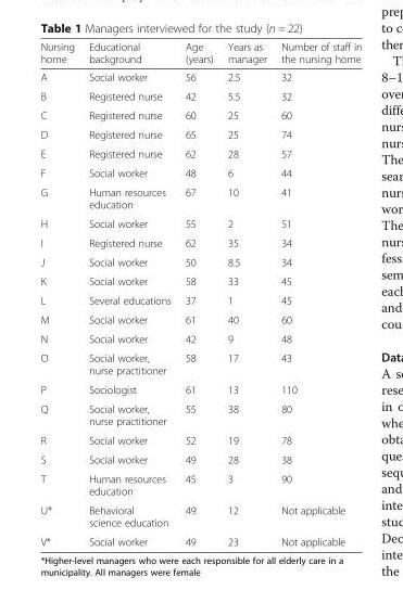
<table><thead><tr><td>Nursing home</td><td>Educational background</td><td>Age (years)</td><td>Years as manager</td><td>Number of staff in the nursing home</td></tr></thead><tbody><tr><td>A</td><td>Social worker</td><td>56</td><td>2.5</td><td>32</td></tr><tr><td>B</td><td>Registered nurse</td><td>42</td><td>5.5</td><td>32</td></tr><tr><td>C</td><td>Registered nurse</td><td>60</td><td>25</td><td>60</td></tr><tr><td>D</td><td>Registered nurse</td><td>65</td><td>25</td><td>74</td></tr><tr><td>E</td><td>Registered nurse</td><td>62</td><td>28</td><td>57</td></tr><tr><td>F</td><td>Social worker</td><td>48</td><td>6</td><td>44</td></tr><tr><td>G</td><td>Human resources education</td><td>67</td><td>10</td><td>41</td></tr><tr><td>H</td><td>Social worker</td><td>55</td><td>2</td><td>51</td></tr><tr><td>I</td><td>Registered nurse</td><td>62</td><td>35</td><td>34</td></tr><tr><td>J</td><td>Social worker</td><td>50</td><td>8.5</td><td>34</td></tr><tr><td>K</td><td>Social worker</td><td>58</td><td>33</td><td>45</td></tr><tr><td>L</td><td>Several educations</td><td>37</td><td>1</td><td>45</td></tr><tr><td>M</td><td>Social worker</td><td>61</td><td>40</td><td>60</td></tr><tr><td>N</td><td>Social worker</td><td>42</td><td>9</td><td>48</td></tr><tr><td>O</td><td>Social worker, nurse practitioner</td><td>58</td><td>17</td><td>43</td></tr><tr><td>P</td><td>Sociologist</td><td>61</td><td>13</td><td>110</td></tr><tr><td>Q</td><td>Social worker, nurse practitioner</td><td>55</td><td>38</td><td>80</td></tr><tr><td>R</td><td>Social worker</td><td>52</td><td>19</td><td>78</td></tr><tr><td>S</td><td>Social worker</td><td>49</td><td>28</td><td>38</td></tr><tr><td>T</td><td>Human resources education</td><td>45</td><td>3</td><td>90</td></tr><tr><td>U*</td><td>Behavioral science education</td><td>49</td><td>12</td><td>Not applicable</td></tr><tr><td>V*</td><td>Social worker</td><td>49</td><td>23</td><td>Not applicable</td></tr></tbody></table>